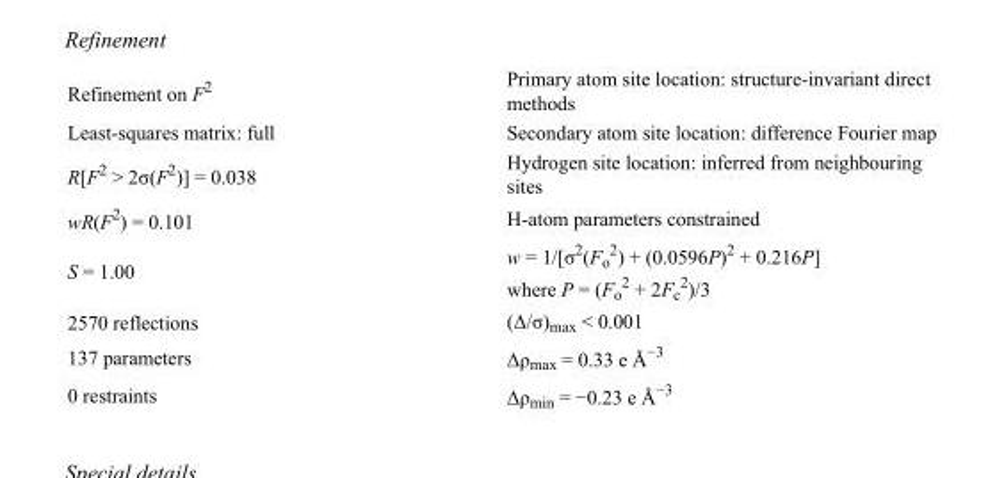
<table><tbody><tr><td>Refinement on F<sup>2</sup></td><td>Primary atom site location: structure-invariant direct methods</td></tr><tr><td>Least-squares matrix: full</td><td>Secondary atom site location: difference Fourier map</td></tr><tr><td>R[F<sup>2</sup> &gt; 2σ(F<sup>2</sup>)] = 0.038</td><td>Hydrogen site location: inferred from neighbouring sites</td></tr><tr><td>wR(F<sup>2</sup>) = 0.101</td><td>H-atom parameters constrained</td></tr><tr><td>S = 1.00</td><td>w = 1/[σ<sup>2</sup>(F<sub>o</sub> <sup>2</sup>) + (0.0596P)<sup>2</sup> + 0.216P] where P = (F<sub>o</sub> <sup>2</sup> + 2F<sub>c</sub> <sup>2</sup>)/3</td></tr><tr><td>2570 reflections</td><td>(Δ/σ)<sub>max</sub> &lt; 0.001</td></tr><tr><td>137 parameters</td><td>Δρ<sub>max</sub> = 0.33 e Å<sup>−3</sup></td></tr><tr><td>0 restraints</td><td>Δρ<sub>min</sub> = −0.23 e Å<sup>−3</sup></td></tr></tbody></table>